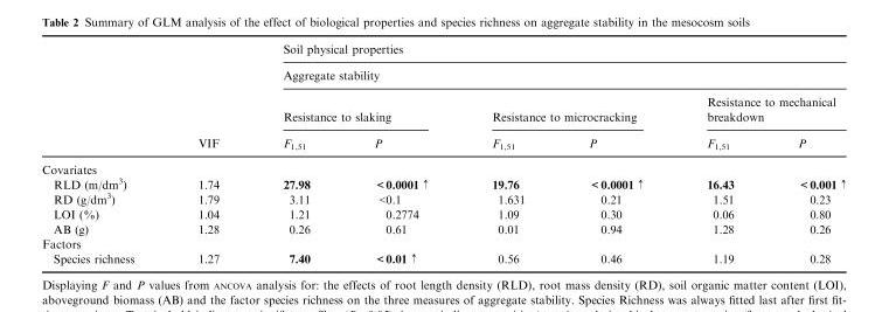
<table><thead><tr><td rowspan="4"></td><td rowspan="4">VIF</td><td rowspan="2" colspan="6">Soil physical properties Aggregate stability</td></tr><tr></tr><tr><td colspan="2">Resistance to slaking</td><td colspan="2">Resistance to microcracking</td><td colspan="2">Resistance to mechanical breakdown</td></tr><tr><td>F<sub>1,51</sub></td><td>P</td><td>F<sub>1,51</sub></td><td>P</td><td>F<sub>1,51</sub></td><td>P</td></tr></thead><tbody><tr><td colspan="8">Covariates</td></tr><tr><td>RLD (m/dm<sup>3</sup>)</td><td>1.74</td><td>27.98</td><td>&lt;0.0001 ↑</td><td>19.76</td><td>&lt;0.0001 ↑</td><td>16.43</td><td>&lt;0.001 ↑</td></tr><tr><td>RD (g/dm<sup>3</sup>)</td><td>1.79</td><td>3.11</td><td>&lt;0.1</td><td>1.631</td><td>0.21</td><td>1.51</td><td>0.23</td></tr><tr><td>LOI (%)</td><td>1.04</td><td>1.21</td><td>0.2774</td><td>1.09</td><td>0.30</td><td>0.06</td><td>0.80</td></tr><tr><td>AB (g)</td><td>1.28</td><td>0.26</td><td>0.61</td><td>0.01</td><td>0.94</td><td>1.28</td><td>0.26</td></tr><tr><td colspan="8">Factors</td></tr><tr><td>Species richness</td><td>1.27</td><td>7.40</td><td>&lt;0.01 ↑</td><td>0.56</td><td>0.46</td><td>1.19</td><td>0.28</td></tr></tbody></table>